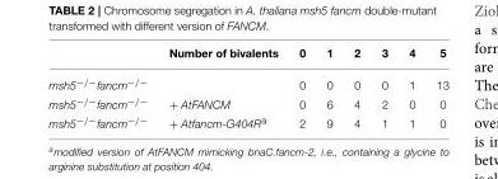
<table><thead><tr><td></td><td>Number of bivalents</td><td>0</td><td>1</td><td>2</td><td>3</td><td>4</td><td>5</td></tr></thead><tbody><tr><td>msh5<sup>−/−</sup>fancm<sup>−/−</sup></td><td></td><td>0</td><td>0</td><td>0</td><td>0</td><td>1</td><td>13</td></tr><tr><td>msh5<sup>−/−</sup>fancm<sup>−/−</sup></td><td>+ AtFANCM</td><td>0</td><td>6</td><td>4</td><td>2</td><td>0</td><td>0</td></tr><tr><td>msh5<sup>−/−</sup>fancm<sup>−/−</sup></td><td>+ Atfancm-G404R<sup>a</sup></td><td>2</td><td>9</td><td>4</td><td>1</td><td>1</td><td>0</td></tr></tbody></table>